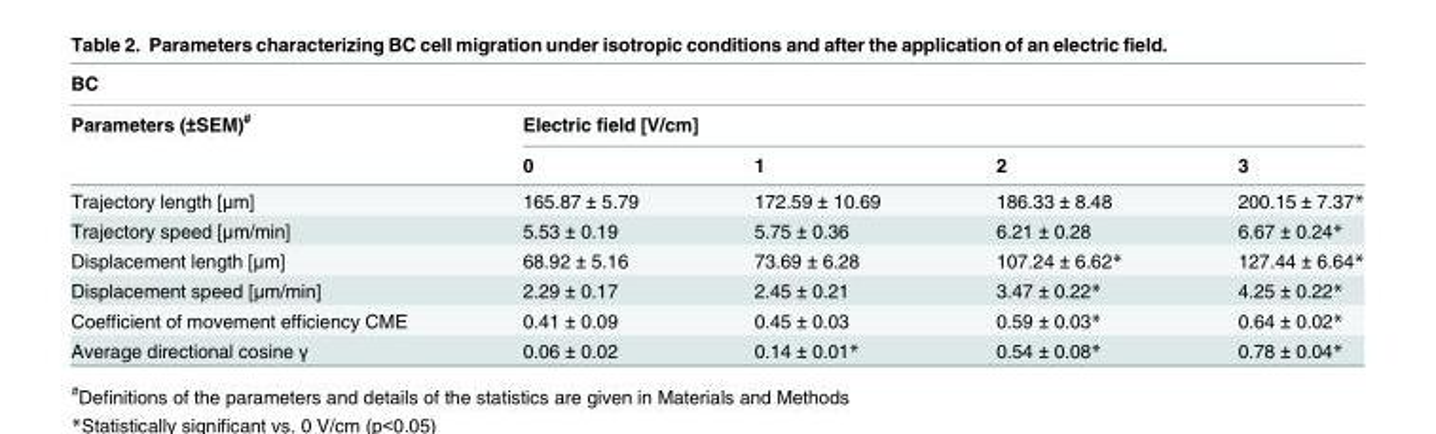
<table><thead><tr><td colspan="5">BC</td></tr><tr><td rowspan="2">Parameters (±SEM)<sup>#</sup></td><td colspan="4">Electric field [V/cm]</td></tr><tr><td>0</td><td>1</td><td>2</td><td>3</td></tr></thead><tbody><tr><td>Trajectory length [μm]</td><td>165.87 ± 5.79</td><td>172.59 ± 10.69</td><td>186.33 ± 8.48</td><td>200.15 ± 7.37*</td></tr><tr><td>Trajectory speed [μm/min]</td><td>5.53 ± 0.19</td><td>5.75 ± 0.36</td><td>6.21 ± 0.28</td><td>6.67 ± 0.24*</td></tr><tr><td>Displacement length [μm]</td><td>68.92 ± 5.16</td><td>73.69 ± 6.28</td><td>107.24 ± 6.62*</td><td>127.44 ± 6.64*</td></tr><tr><td>Displacement speed [μm/min]</td><td>2.29 ± 0.17</td><td>2.45 ± 0.21</td><td>3.47 ± 0.22*</td><td>4.25 ± 0.22*</td></tr><tr><td>Coefficient of movement efficiency CME</td><td>0.41 ± 0.09</td><td>0.45 ± 0.03</td><td>0.59 ± 0.03*</td><td>0.64 ± 0.02*</td></tr><tr><td>Average directional cosine γ</td><td>0.06 ± 0.02</td><td>0.14 ± 0.01*</td><td>0.54 ± 0.08*</td><td>0.78 ± 0.04*</td></tr></tbody></table>